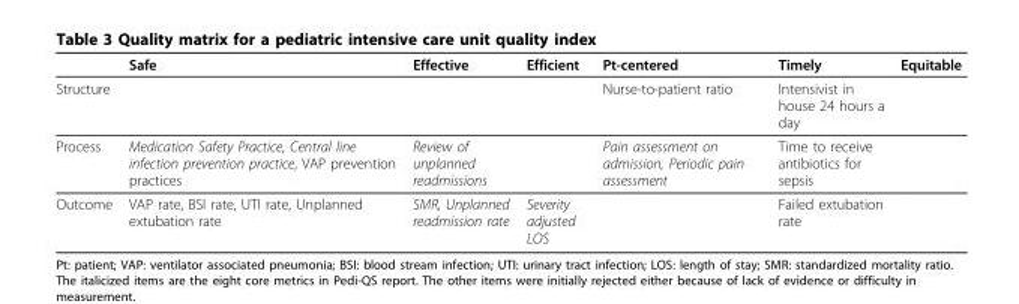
<table><thead><tr><td></td><td>Safe</td><td>Effective</td><td>Efficient</td><td>Pt-centered</td><td>Timely</td><td>Equitable</td></tr></thead><tbody><tr><td>Structure</td><td></td><td></td><td></td><td>Nurse-to-patient ratio</td><td>Intensivist in house 24 hours a day</td><td></td></tr><tr><td>Process</td><td>Medication Safety Practice, Central line infection prevention practice, VAP prevention practices</td><td>Review of unplanned readmissions</td><td></td><td>Pain assessment on admission, Periodic pain assessment</td><td>Time to receive antibiotics for sepsis</td><td></td></tr><tr><td>Outcome</td><td>VAP rate, BSI rate, UTI rate, Unplanned extubation rate</td><td>SMR, Unplanned readmission rate</td><td>Severity adjusted LOS</td><td></td><td>Failed extubation rate</td><td></td></tr></tbody></table>